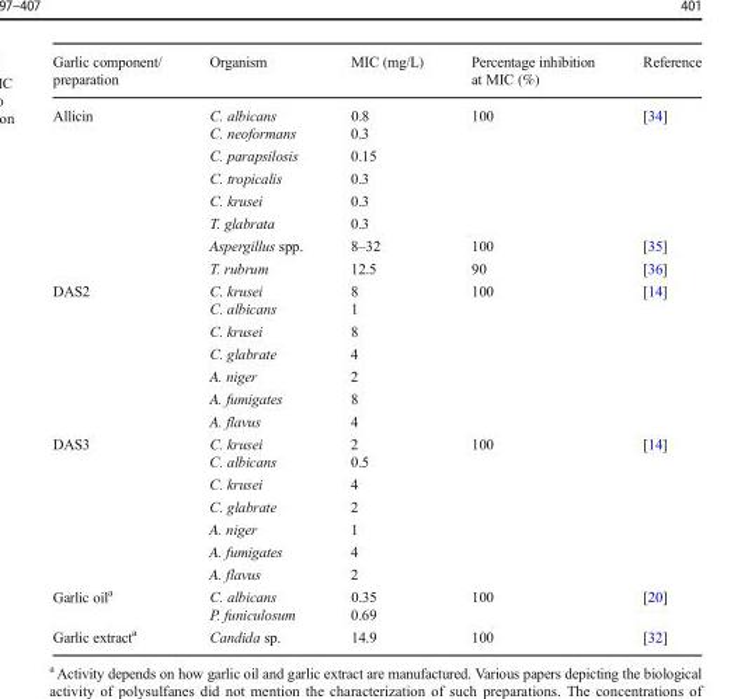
<table><thead><tr><td>Garlic component/ preparation</td><td>Organism</td><td>MIC (mg/L)</td><td>Percentage inhibition at MIC (%)</td><td>Reference</td></tr></thead><tbody><tr><td rowspan="8">Allicin</td><td>C. albicans</td><td>0.8</td><td rowspan="6">100</td><td rowspan="6">[34]</td></tr><tr><td>C. neoformans</td><td>0.3</td></tr><tr><td>C. parapsilosis</td><td>0.15</td></tr><tr><td>C. tropicalis</td><td>0.3</td></tr><tr><td>C. krusei</td><td>0.3</td></tr><tr><td>T. glabrata</td><td>0.3</td></tr><tr><td>Aspergillus spp.</td><td>8–32</td><td>100</td><td>[35]</td></tr><tr><td>T. rubrum</td><td>12.5</td><td>90</td><td>[36]</td></tr><tr><td rowspan="7">DAS2</td><td>C. krusei</td><td>8</td><td rowspan="7">100</td><td rowspan="7">[14]</td></tr><tr><td>C. albicans</td><td>1</td></tr><tr><td>C. krusei</td><td>8</td></tr><tr><td>C. glabrate</td><td>4</td></tr><tr><td>A. niger</td><td>2</td></tr><tr><td>A. fumigates</td><td>8</td></tr><tr><td>A. flavus</td><td>4</td></tr><tr><td rowspan="7">DAS3</td><td>C. krusei</td><td>2</td><td rowspan="7">100</td><td rowspan="7">[14]</td></tr><tr><td>C. albicans</td><td>0.5</td></tr><tr><td>C. krusei</td><td>4</td></tr><tr><td>C. glabrate</td><td>2</td></tr><tr><td>A. niger</td><td>1</td></tr><tr><td>A. fumigates</td><td>4</td></tr><tr><td>A. flavus</td><td>2</td></tr><tr><td rowspan="2">Garlic oil<sup>a</sup></td><td>C. albicans</td><td>0.35</td><td rowspan="2">100</td><td rowspan="2">[20]</td></tr><tr><td>P. funiculosum</td><td>0.69</td></tr><tr><td>Garlic extract<sup>a</sup></td><td>Candida sp.</td><td>14.9</td><td>100</td><td>[32]</td></tr></tbody></table>